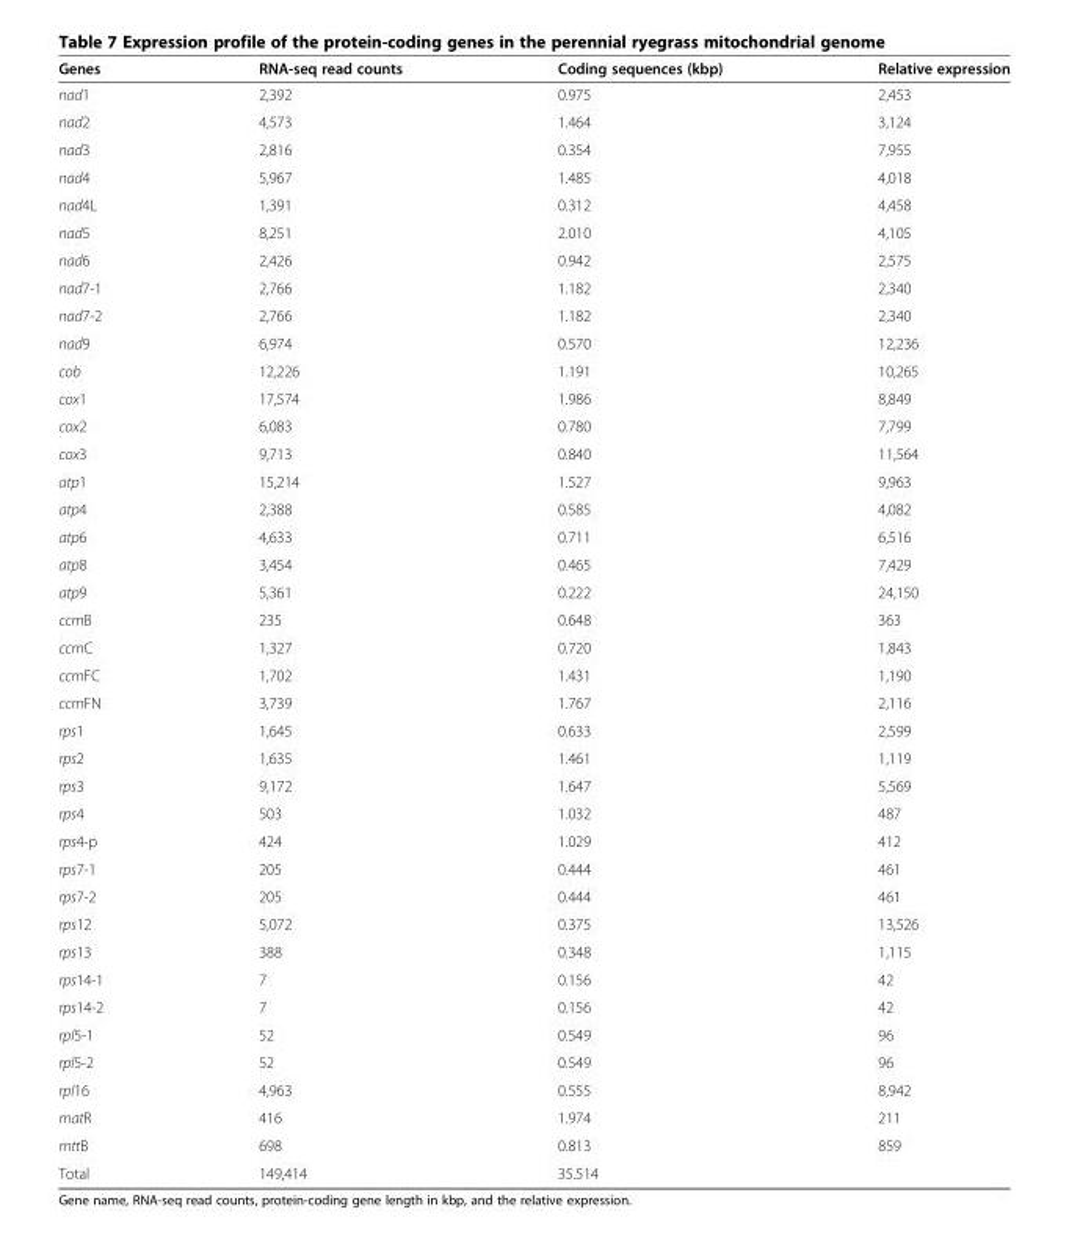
<table><thead><tr><td>Genes</td><td>RNA-seq read counts</td><td>Coding sequences (kbp)</td><td>Relative expression</td></tr></thead><tbody><tr><td>nad1</td><td>2,392</td><td>0.975</td><td>2,453</td></tr><tr><td>nad2</td><td>4,573</td><td>1.464</td><td>3,124</td></tr><tr><td>nad3</td><td>2,816</td><td>0.354</td><td>7,955</td></tr><tr><td>nad4</td><td>5,967</td><td>1.485</td><td>4,018</td></tr><tr><td>nad4L</td><td>1,391</td><td>0.312</td><td>4,458</td></tr><tr><td>nad5</td><td>8,251</td><td>2.010</td><td>4,105</td></tr><tr><td>nad6</td><td>2,426</td><td>0.942</td><td>2,575</td></tr><tr><td>nad7-1</td><td>2,766</td><td>1.182</td><td>2,340</td></tr><tr><td>nad7-2</td><td>2,766</td><td>1.182</td><td>2,340</td></tr><tr><td>nad9</td><td>6,974</td><td>0.570</td><td>12,236</td></tr><tr><td>cob</td><td>12,226</td><td>1.191</td><td>10,265</td></tr><tr><td>cox1</td><td>17,574</td><td>1.986</td><td>8,849</td></tr><tr><td>cox2</td><td>6,083</td><td>0.780</td><td>7,799</td></tr><tr><td>cox3</td><td>9,713</td><td>0.840</td><td>11,564</td></tr><tr><td>atp1</td><td>15,214</td><td>1.527</td><td>9,963</td></tr><tr><td>atp4</td><td>2,388</td><td>0.585</td><td>4,082</td></tr><tr><td>atp6</td><td>4,633</td><td>0.711</td><td>6,516</td></tr><tr><td>atp8</td><td>3,454</td><td>0.465</td><td>7,429</td></tr><tr><td>atp9</td><td>5,361</td><td>0.222</td><td>24,150</td></tr><tr><td>ccmB</td><td>235</td><td>0.648</td><td>363</td></tr><tr><td>ccmC</td><td>1,327</td><td>0.720</td><td>1,843</td></tr><tr><td>ccmFC</td><td>1,702</td><td>1.431</td><td>1,190</td></tr><tr><td>ccmFN</td><td>3,739</td><td>1.767</td><td>2,116</td></tr><tr><td>rps1</td><td>1,645</td><td>0.633</td><td>2,599</td></tr><tr><td>rps2</td><td>1,635</td><td>1.461</td><td>1,119</td></tr><tr><td>rps3</td><td>9,172</td><td>1.647</td><td>5,569</td></tr><tr><td>rps4</td><td>503</td><td>1.032</td><td>487</td></tr><tr><td>rps4-p</td><td>424</td><td>1.029</td><td>412</td></tr><tr><td>rps7-1</td><td>205</td><td>0.444</td><td>461</td></tr><tr><td>rps7-2</td><td>205</td><td>0.444</td><td>461</td></tr><tr><td>rps12</td><td>5,072</td><td>0.375</td><td>13,526</td></tr><tr><td>rps13</td><td>388</td><td>0.348</td><td>1,115</td></tr><tr><td>rps14-1</td><td>7</td><td>0.156</td><td>42</td></tr><tr><td>rps14-2</td><td>7</td><td>0.156</td><td>42</td></tr><tr><td>rpl5-1</td><td>52</td><td>0.549</td><td>96</td></tr><tr><td>rpl5-2</td><td>52</td><td>0.549</td><td>96</td></tr><tr><td>rpl16</td><td>4,963</td><td>0.555</td><td>8,942</td></tr><tr><td>matR</td><td>416</td><td>1.974</td><td>211</td></tr><tr><td>mttB</td><td>698</td><td>0.813</td><td>859</td></tr><tr><td>Total</td><td>149,414</td><td>35.514</td><td></td></tr></tbody></table>